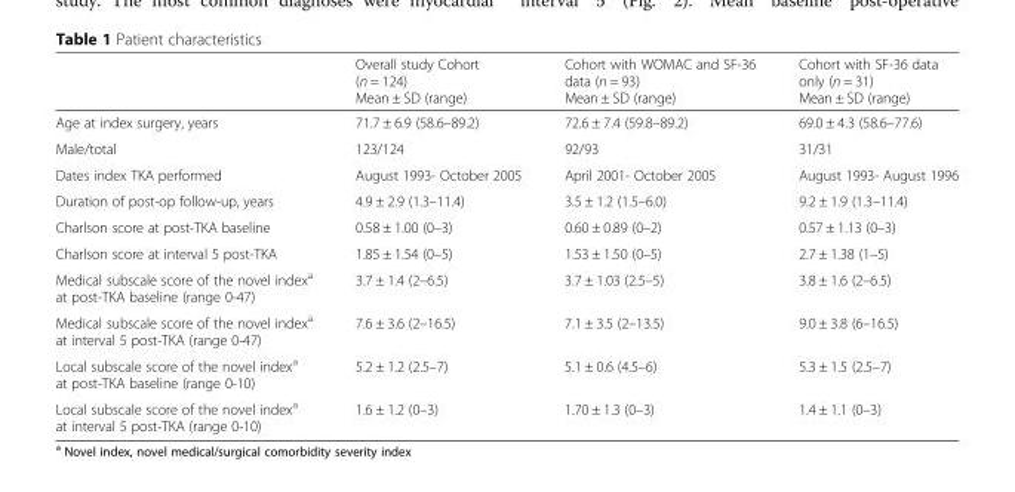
<table><thead><tr><td></td><td>Overall study Cohort (n = 124) Mean ± SD (range)</td><td>Cohort with WOMAC and SF-36 data (n = 93) Mean ± SD (range)</td><td>Cohort with SF-36 data only (n = 31) Mean ± SD (range)</td></tr></thead><tbody><tr><td>Age at index surgery, years</td><td>71.7 ± 6.9 (58.6–89.2)</td><td>72.6 ± 7.4 (59.8–89.2)</td><td>69.0 ± 4.3 (58.6–77.6)</td></tr><tr><td>Male/total</td><td>123/124</td><td>92/93</td><td>31/31</td></tr><tr><td>Dates index TKA performed</td><td>August 1993- October 2005</td><td>April 2001- October 2005</td><td>August 1993- August 1996</td></tr><tr><td>Duration of post-op follow-up, years</td><td>4.9 ± 2.9 (1.3–11.4)</td><td>3.5 ± 1.2 (1.5–6.0)</td><td>9.2 ± 1.9 (1.3–11.4)</td></tr><tr><td>Charlson score at post-TKA baseline</td><td>0.58 ± 1.00 (0–3)</td><td>0.60 ± 0.89 (0–2)</td><td>0.57 ± 1.13 (0–3)</td></tr><tr><td>Charlson score at interval 5 post-TKA</td><td>1.85 ± 1.54 (0–5)</td><td>1.53 ± 1.50 (0–5)</td><td>2.7 ± 1.38 (1–5)</td></tr><tr><td>Medical subscale score of the novel index<sup>a</sup> at post-TKA baseline (range 0-47)</td><td>3.7 ± 1.4 (2–6.5)</td><td>3.7 ± 1.03 (2.5–5)</td><td>3.8 ± 1.6 (2–6.5)</td></tr><tr><td>Medical subscale score of the novel index<sup>a</sup> at interval 5 post-TKA (range 0-47)</td><td>7.6 ± 3.6 (2–16.5)</td><td>7.1 ± 3.5 (2–13.5)</td><td>9.0 ± 3.8 (6–16.5)</td></tr><tr><td>Local subscale score of the novel index<sup>a</sup> at post-TKA baseline (range 0-10)</td><td>5.2 ± 1.2 (2.5–7)</td><td>5.1 ± 0.6 (4.5–6)</td><td>5.3 ± 1.5 (2.5–7)</td></tr><tr><td>Local subscale score of the novel index<sup>a</sup> at interval 5 post-TKA (range 0-10)</td><td>1.6 ± 1.2 (0–3)</td><td>1.70 ± 1.3 (0–3)</td><td>1.4 ± 1.1 (0–3)</td></tr></tbody></table>